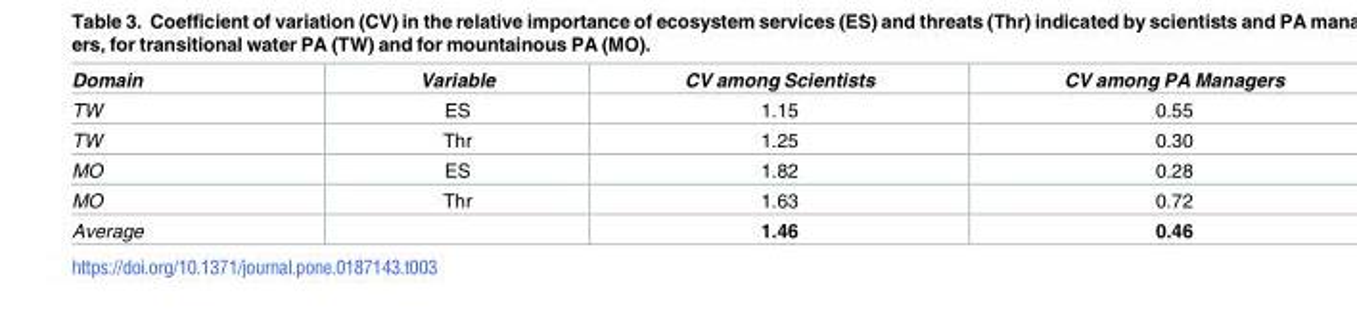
<table><thead><tr><td>Domain</td><td>Variable</td><td>CV among Scientists</td><td>CV among PA Managers</td></tr></thead><tbody><tr><td>TW</td><td>ES</td><td>1.15</td><td>0.55</td></tr><tr><td>TW</td><td>Thr</td><td>1.25</td><td>0.30</td></tr><tr><td>MO</td><td>ES</td><td>1.82</td><td>0.28</td></tr><tr><td>MO</td><td>Thr</td><td>1.63</td><td>0.72</td></tr><tr><td>Average</td><td></td><td>1.46</td><td>0.46</td></tr></tbody></table>